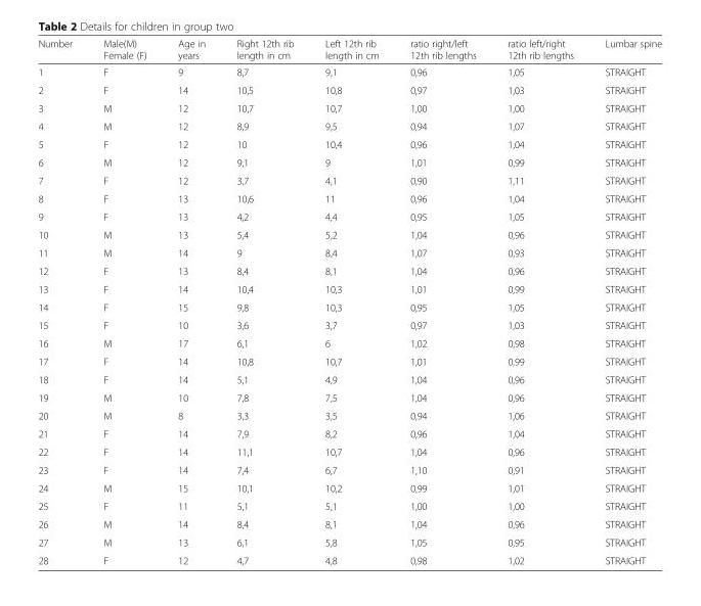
<table><thead><tr><td>Number</td><td>Male(M) Female (F)</td><td>Age in years</td><td>Right 12th rib length in cm</td><td>Left 12th rib length in cm</td><td>ratio right/left 12th rib lengths</td><td>ratio left/right 12th rib lengths</td><td>Lumbar spine</td></tr></thead><tbody><tr><td>1</td><td>F</td><td>9</td><td>8,7</td><td>9,1</td><td>0,96</td><td>1,05</td><td>STRAIGHT</td></tr><tr><td>2</td><td>F</td><td>14</td><td>10,5</td><td>10,8</td><td>0,97</td><td>1,03</td><td>STRAIGHT</td></tr><tr><td>3</td><td>M</td><td>12</td><td>10,7</td><td>10,7</td><td>1,00</td><td>1,00</td><td>STRAIGHT</td></tr><tr><td>4</td><td>M</td><td>12</td><td>8,9</td><td>9,5</td><td>0,94</td><td>1,07</td><td>STRAIGHT</td></tr><tr><td>5</td><td>F</td><td>12</td><td>10</td><td>10,4</td><td>0,96</td><td>1,04</td><td>STRAIGHT</td></tr><tr><td>6</td><td>M</td><td>12</td><td>9,1</td><td>9</td><td>1,01</td><td>0,99</td><td>STRAIGHT</td></tr><tr><td>7</td><td>F</td><td>12</td><td>3,7</td><td>4,1</td><td>0,90</td><td>1,11</td><td>STRAIGHT</td></tr><tr><td>8</td><td>F</td><td>13</td><td>10,6</td><td>11</td><td>0,96</td><td>1,04</td><td>STRAIGHT</td></tr><tr><td>9</td><td>F</td><td>13</td><td>4,2</td><td>4,4</td><td>0,95</td><td>1,05</td><td>STRAIGHT</td></tr><tr><td>10</td><td>M</td><td>13</td><td>5,4</td><td>5,2</td><td>1,04</td><td>0,96</td><td>STRAIGHT</td></tr><tr><td>11</td><td>M</td><td>14</td><td>9</td><td>8,4</td><td>1,07</td><td>0,93</td><td>STRAIGHT</td></tr><tr><td>12</td><td>F</td><td>13</td><td>8,4</td><td>8,1</td><td>1,04</td><td>0,96</td><td>STRAIGHT</td></tr><tr><td>13</td><td>F</td><td>14</td><td>10,4</td><td>10,3</td><td>1,01</td><td>0,99</td><td>STRAIGHT</td></tr><tr><td>14</td><td>F</td><td>15</td><td>9,8</td><td>10,3</td><td>0,95</td><td>1,05</td><td>STRAIGHT</td></tr><tr><td>15</td><td>F</td><td>10</td><td>3,6</td><td>3,7</td><td>0,97</td><td>1,03</td><td>STRAIGHT</td></tr><tr><td>16</td><td>M</td><td>17</td><td>6,1</td><td>6</td><td>1,02</td><td>0,98</td><td>STRAIGHT</td></tr><tr><td>17</td><td>F</td><td>14</td><td>10,8</td><td>10,7</td><td>1,01</td><td>0,99</td><td>STRAIGHT</td></tr><tr><td>18</td><td>F</td><td>14</td><td>5,1</td><td>4,9</td><td>1,04</td><td>0,96</td><td>STRAIGHT</td></tr><tr><td>19</td><td>M</td><td>10</td><td>7,8</td><td>7,5</td><td>1,04</td><td>0,96</td><td>STRAIGHT</td></tr><tr><td>20</td><td>M</td><td>8</td><td>3,3</td><td>3,5</td><td>0,94</td><td>1,06</td><td>STRAIGHT</td></tr><tr><td>21</td><td>F</td><td>14</td><td>7,9</td><td>8,2</td><td>0,96</td><td>1,04</td><td>STRAIGHT</td></tr><tr><td>22</td><td>F</td><td>14</td><td>11,1</td><td>10,7</td><td>1,04</td><td>0,96</td><td>STRAIGHT</td></tr><tr><td>23</td><td>F</td><td>14</td><td>7,4</td><td>6,7</td><td>1,10</td><td>0,91</td><td>STRAIGHT</td></tr><tr><td>24</td><td>M</td><td>15</td><td>10,1</td><td>10,2</td><td>0,99</td><td>1,01</td><td>STRAIGHT</td></tr><tr><td>25</td><td>F</td><td>11</td><td>5,1</td><td>5,1</td><td>1,00</td><td>1,00</td><td>STRAIGHT</td></tr><tr><td>26</td><td>M</td><td>14</td><td>8,4</td><td>8,1</td><td>1,04</td><td>0,96</td><td>STRAIGHT</td></tr><tr><td>27</td><td>M</td><td>13</td><td>6,1</td><td>5,8</td><td>1,05</td><td>0,95</td><td>STRAIGHT</td></tr><tr><td>28</td><td>F</td><td>12</td><td>4,7</td><td>4,8</td><td>0,98</td><td>1,02</td><td>STRAIGHT</td></tr></tbody></table>